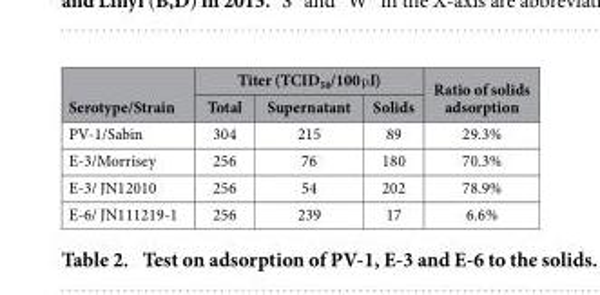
<table><thead><tr><td rowspan="2">Serotype/Strain</td><td colspan="3">Titer (TCID<sub>50</sub>/100 μ l)</td><td rowspan="2">Ratio of solids adsorption</td></tr><tr><td>Total</td><td>Supernatant</td><td>Solids</td></tr></thead><tbody><tr><td>PV-1/Sabin</td><td>304</td><td>215</td><td>89</td><td>29.3%</td></tr><tr><td>E-3/Morrisey</td><td>256</td><td>76</td><td>180</td><td>70.3%</td></tr><tr><td>E-3/ JN12010</td><td>256</td><td>54</td><td>202</td><td>78.9%</td></tr><tr><td>E-6/ JN111219-1</td><td>256</td><td>239</td><td>17</td><td>6.6%</td></tr></tbody></table>